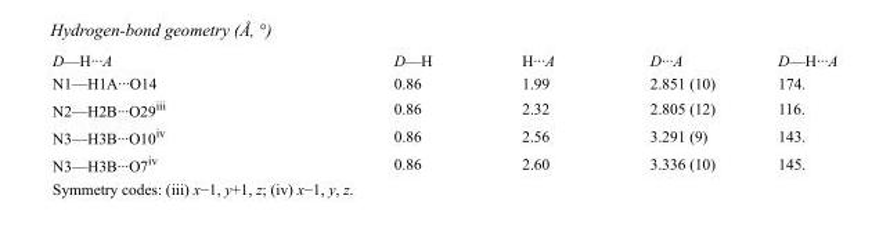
<table><tbody><tr><td>D—H···A</td><td>D—H</td><td>H···A</td><td>D···A</td><td>D—H···A</td></tr><tr><td>N1—H1A···O14</td><td>0.86</td><td>1.99</td><td>2.851 (10)</td><td>174.</td></tr><tr><td>N2—H2B···O29<sup>iii</sup></td><td>0.86</td><td>2.32</td><td>2.805 (12)</td><td>116.</td></tr><tr><td>N3—H3B···O10<sup>iv</sup></td><td>0.86</td><td>2.56</td><td>3.291 (9)</td><td>143.</td></tr><tr><td>N3—H3B···O7<sup>iv</sup></td><td>0.86</td><td>2.60</td><td>3.336 (10)</td><td>145.</td></tr></tbody></table>